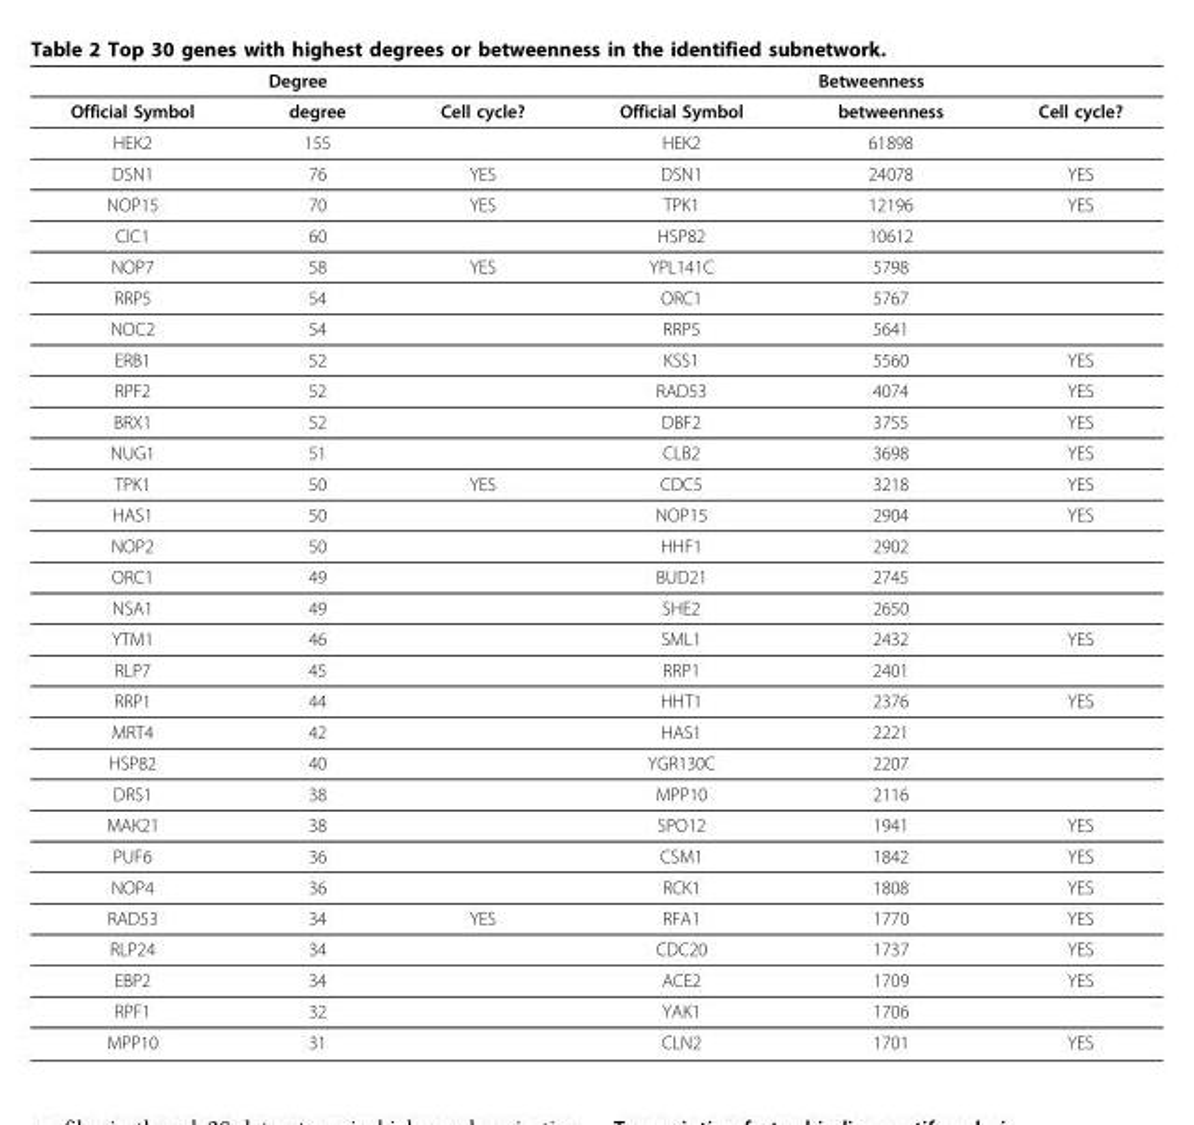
<table><thead><tr><td colspan="3">Degree</td><td colspan="3">Betweenness</td></tr><tr><td>Official Symbol</td><td>degree</td><td>Cell cycle?</td><td>Official Symbol</td><td>betweenness</td><td>Cell cycle?</td></tr></thead><tbody><tr><td>HEK2</td><td>155</td><td></td><td>HEK2</td><td>61898</td><td></td></tr><tr><td>DSN1</td><td>76</td><td>YES</td><td>DSN1</td><td>24078</td><td>YES</td></tr><tr><td>NOP15</td><td>70</td><td>YES</td><td>TPK1</td><td>12196</td><td>YES</td></tr><tr><td>CIC1</td><td>60</td><td></td><td>HSP82</td><td>10612</td><td></td></tr><tr><td>NOP7</td><td>58</td><td>YES</td><td>YPL141C</td><td>5798</td><td></td></tr><tr><td>RRP5</td><td>54</td><td></td><td>ORC1</td><td>5767</td><td></td></tr><tr><td>NOC2</td><td>54</td><td></td><td>RRP5</td><td>5641</td><td></td></tr><tr><td>ERB1</td><td>52</td><td></td><td>KSS1</td><td>5560</td><td>YES</td></tr><tr><td>RPF2</td><td>52</td><td></td><td>RAD53</td><td>4074</td><td>YES</td></tr><tr><td>BRX1</td><td>52</td><td></td><td>DBF2</td><td>3755</td><td>YES</td></tr><tr><td>NUG1</td><td>51</td><td></td><td>CLB2</td><td>3698</td><td>YES</td></tr><tr><td>TPK1</td><td>50</td><td>YES</td><td>CDC5</td><td>3218</td><td>YES</td></tr><tr><td>HAS1</td><td>50</td><td></td><td>NOP15</td><td>2904</td><td>YES</td></tr><tr><td>NOP2</td><td>50</td><td></td><td>HHF1</td><td>2902</td><td></td></tr><tr><td>ORC1</td><td>49</td><td></td><td>BUD21</td><td>2745</td><td></td></tr><tr><td>NSA1</td><td>49</td><td></td><td>SHE2</td><td>2650</td><td></td></tr><tr><td>YTM1</td><td>46</td><td></td><td>SML1</td><td>2432</td><td>YES</td></tr><tr><td>RLP7</td><td>45</td><td></td><td>RRP1</td><td>2401</td><td></td></tr><tr><td>RRP1</td><td>44</td><td></td><td>HHT1</td><td>2376</td><td>YES</td></tr><tr><td>MRT4</td><td>42</td><td></td><td>HAS1</td><td>2221</td><td></td></tr><tr><td>HSP82</td><td>40</td><td></td><td>YGR130C</td><td>2207</td><td></td></tr><tr><td>DRS1</td><td>38</td><td></td><td>MPP10</td><td>2116</td><td></td></tr><tr><td>MAK21</td><td>38</td><td></td><td>SPO12</td><td>1941</td><td>YES</td></tr><tr><td>PUF6</td><td>36</td><td></td><td>CSM1</td><td>1842</td><td>YES</td></tr><tr><td>NOP4</td><td>36</td><td></td><td>RCK1</td><td>1808</td><td>YES</td></tr><tr><td>RAD53</td><td>34</td><td>YES</td><td>RFA1</td><td>1770</td><td>YES</td></tr><tr><td>RLP24</td><td>34</td><td></td><td>CDC20</td><td>1737</td><td>YES</td></tr><tr><td>EBP2</td><td>34</td><td></td><td>ACE2</td><td>1709</td><td>YES</td></tr><tr><td>RPF1</td><td>32</td><td></td><td>YAK1</td><td>1706</td><td></td></tr><tr><td>MPP10</td><td>31</td><td></td><td>CLN2</td><td>1701</td><td>YES</td></tr></tbody></table>